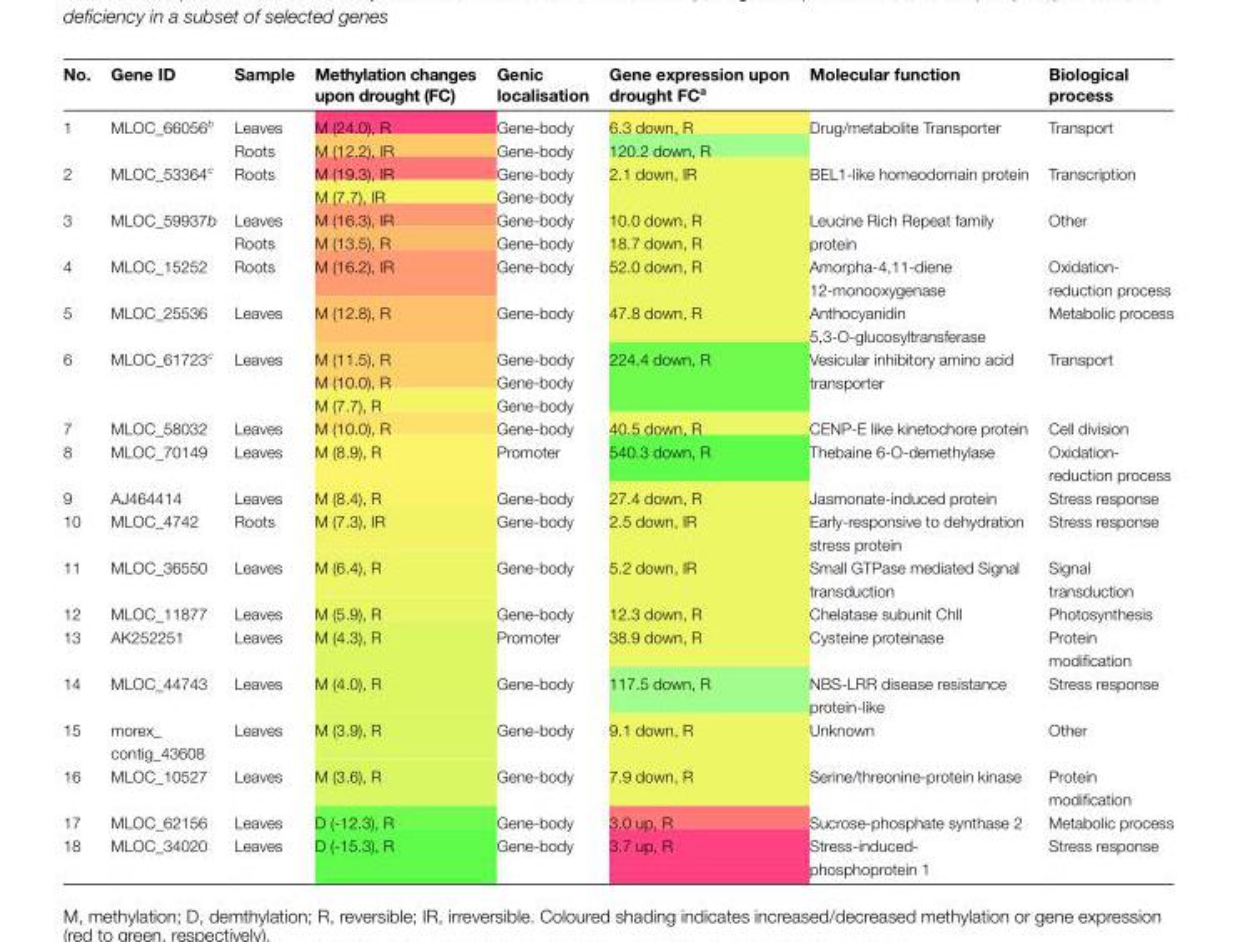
<table><thead><tr><td>No.</td><td>Gene ID</td><td>Sample</td><td>Methylation changes upon drought (FC)</td><td>Genic localisation</td><td>Gene expression upon drought FC<sup>a</sup></td><td>Molecular function</td><td>Biological process</td></tr></thead><tbody><tr><td rowspan="2">1</td><td rowspan="2">MLOC_66056<sup>b</sup></td><td>Leaves</td><td>M (24.0), R</td><td>Gene-body</td><td>6.3 down, R</td><td rowspan="2">Drug/metabolite Transporter</td><td rowspan="2">Transport</td></tr><tr><td>Roots</td><td>M (12.2), IR</td><td>Gene-body</td><td>120.2 down, R</td></tr><tr><td rowspan="2">2</td><td rowspan="2">MLOC_53364<sup>c</sup></td><td rowspan="2">Roots</td><td>M (19.3), IR</td><td>Gene-body</td><td rowspan="2">2.1 down, IR</td><td rowspan="2">BEL1-like homeodomain protein</td><td rowspan="2">Transcription</td></tr><tr><td>M (7.7), IR</td><td>Gene-body</td></tr><tr><td rowspan="2">3</td><td rowspan="2">MLOC_59937<sup>b</sup></td><td>Leaves</td><td>M (16.3), IR</td><td>Gene-body</td><td>10.0 down, R</td><td rowspan="2">Leucine Rich Repeat family protein</td><td rowspan="2">Other</td></tr><tr><td>Roots</td><td>M (13.5), R</td><td>Gene-body</td><td>18.7 down, R</td></tr><tr><td>4</td><td>MLOC_15252</td><td>Roots</td><td>M (16.2), IR</td><td>Gene-body</td><td>52.0 down, R</td><td>Amorpha-4,11-diene 12-monooxygenase</td><td>Oxidation- reduction process</td></tr><tr><td>5</td><td>MLOC_25536</td><td>Leaves</td><td>M (12.8), R</td><td>Gene-body</td><td>47.8 down, R</td><td>Anthocyanidin 5,3-O-glucosyltransferase</td><td>Metabolic process</td></tr><tr><td rowspan="3">6</td><td rowspan="3">MLOC_61723<sup>c</sup></td><td rowspan="3">Leaves</td><td>M (11.5), R</td><td>Gene-body</td><td rowspan="3">224.4 down, R</td><td rowspan="3">Vesicular inhibitory amino acid transporter</td><td rowspan="3">Transport</td></tr><tr><td>M (10.0), R</td><td>Gene-body</td></tr><tr><td>M (7.7), R</td><td>Gene-body</td></tr><tr><td>7</td><td>MLOC_58032</td><td>Leaves</td><td>M (10.0), R</td><td>Gene-body</td><td>40.5 down, R</td><td>CENP-E like kinetochore protein</td><td>Cell division</td></tr><tr><td>8</td><td>MLOC_70149</td><td>Leaves</td><td>M (8.9), R</td><td>Promoter</td><td>540.3 down, R</td><td>Thebaine 6-O-demethylase</td><td>Oxidation- reduction process</td></tr><tr><td>9</td><td>AJ464414</td><td>Leaves</td><td>M (8.4), R</td><td>Gene-body</td><td>27.4 down, R</td><td>Jasmonate-induced protein</td><td>Stress response</td></tr><tr><td>10</td><td>MLOC_4742</td><td>Roots</td><td>M (7.3), IR</td><td>Gene-body</td><td>2.5 down, IR</td><td>Early-responsive to dehydration stress protein</td><td>Stress response</td></tr><tr><td>11</td><td>MLOC_36550</td><td>Leaves</td><td>M (6.4), R</td><td>Gene-body</td><td>5.2 down, IR</td><td>Small GTPase mediated Signal transduction</td><td>Signal transduction</td></tr><tr><td>12</td><td>MLOC_11877</td><td>Leaves</td><td>M (5.9), R</td><td>Gene-body</td><td>12.3 down, R</td><td>Chelatase subunit ChlI</td><td>Photosynthesis</td></tr><tr><td>13</td><td>AK252251</td><td>Leaves</td><td>M (4.3), R</td><td>Promoter</td><td>38.9 down, R</td><td>Cysteine proteinase</td><td>Protein modification</td></tr><tr><td>14</td><td>MLOC_44743</td><td>Leaves</td><td>M (4.0), R</td><td>Gene-body</td><td>117.5 down, R</td><td>NBS-LRR disease resistance protein-like</td><td>Stress response</td></tr><tr><td>15</td><td>morex_ contig_43608</td><td>Leaves</td><td>M (3.9), R</td><td>Gene-body</td><td>9.1 down, R</td><td>Unknown</td><td>Other</td></tr><tr><td>16</td><td>MLOC_10527</td><td>Leaves</td><td>M (3.6), R</td><td>Gene-body</td><td>7.9 down, R</td><td>Serine/threonine-protein kinase</td><td>Protein modification</td></tr><tr><td>17</td><td>MLOC_62156</td><td>Leaves</td><td>D (-12.3), R</td><td>Gene-body</td><td>3.0 up, R</td><td>Sucrose-phosphate synthase 2</td><td>Metabolic process</td></tr><tr><td>18</td><td>MLOC_34020</td><td>Leaves</td><td>D (-15.3), R</td><td>Gene-body</td><td>3.7 up, R</td><td>Stress-induced- phosphoprotein 1</td><td>Stress response</td></tr></tbody></table>